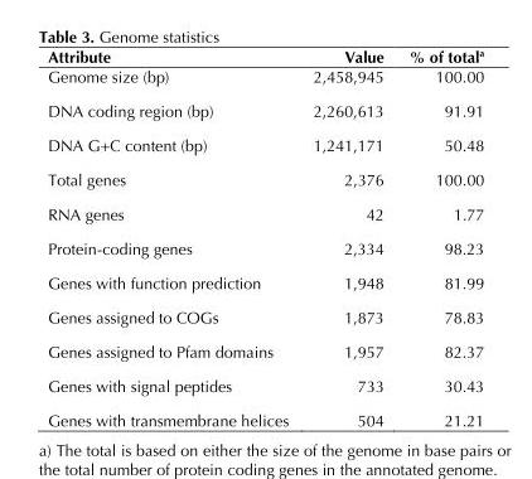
<table><thead><tr><td>Attribute</td><td>Value</td><td>% of total<sup>a</sup></td></tr></thead><tbody><tr><td>Genome size (bp)</td><td>2,458,945</td><td>100.00</td></tr><tr><td>DNA coding region (bp)</td><td>2,260,613</td><td>91.91</td></tr><tr><td>DNA G+C content (bp)</td><td>1,241,171</td><td>50.48</td></tr><tr><td>Total genes</td><td>2,376</td><td>100.00</td></tr><tr><td>RNA genes</td><td>42</td><td>1.77</td></tr><tr><td>Protein-coding genes</td><td>2,334</td><td>98.23</td></tr><tr><td>Genes with function prediction</td><td>1,948</td><td>81.99</td></tr><tr><td>Genes assigned to COGs</td><td>1,873</td><td>78.83</td></tr><tr><td>Genes assigned to Pfam domains</td><td>1,957</td><td>82.37</td></tr><tr><td>Genes with signal peptides</td><td>733</td><td>30.43</td></tr><tr><td>Genes with transmembrane helices</td><td>504</td><td>21.21</td></tr></tbody></table>